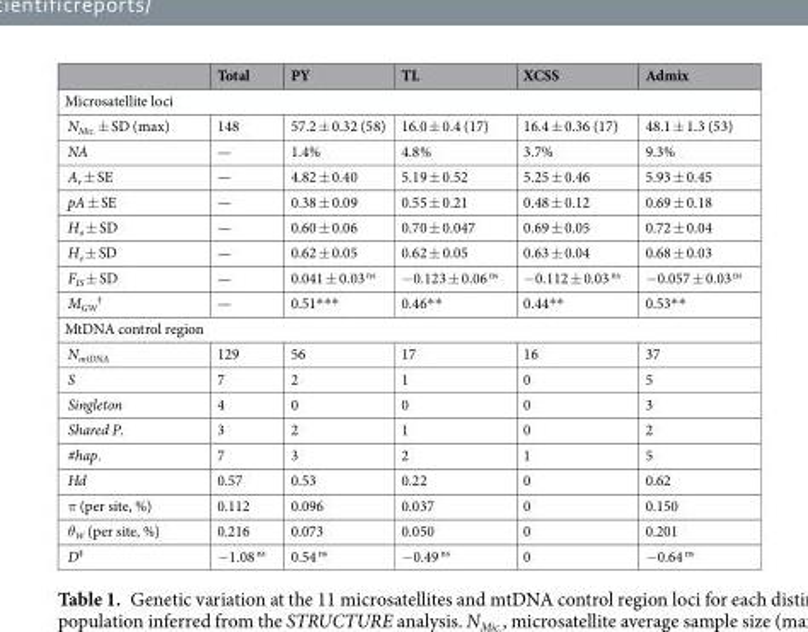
<table><thead><tr><td></td><td>Total</td><td>PY</td><td>TL</td><td>XCSS</td><td>Admix</td></tr></thead><tbody><tr><td colspan="6">Microsatellite loci</td></tr><tr><td>N<sub>Mic.</sub> ± SD (max)</td><td>148</td><td>57.2 ± 0.32 (58)</td><td>16.0 ± 0.4 (17)</td><td>16.4 ± 0.36 (17)</td><td>48.1 ± 1.3 (53)</td></tr><tr><td>NA</td><td>—</td><td>1.4%</td><td>4.8%</td><td>3.7%</td><td>9.3%</td></tr><tr><td>A<sub>r</sub> ± SE</td><td>—</td><td>4.82 ± 0.40</td><td>5.19 ± 0.52</td><td>5.25 ± 0.46</td><td>5.93 ± 0.45</td></tr><tr><td>pA ± SE</td><td>—</td><td>0.38 ± 0.09</td><td>0.55 ± 0.21</td><td>0.48 ± 0.12</td><td>0.69 ± 0.18</td></tr><tr><td>H<sub>o</sub> ± SD</td><td>—</td><td>0.60 ± 0.06</td><td>0.70 ± 0.047</td><td>0.69 ± 0.05</td><td>0.72 ± 0.04</td></tr><tr><td>H<sub>e</sub> ± SD</td><td>—</td><td>0.62 ± 0.05</td><td>0.62 ± 0.05</td><td>0.63 ± 0.04</td><td>0.68 ± 0.03</td></tr><tr><td>F<sub>IS</sub> ± SD</td><td>—</td><td>0.041 ± 0.03 <sup>ns</sup></td><td>−0.123 ± 0.06 <sup>ns</sup></td><td>−0.112 ± 0.03 <sup>ns</sup></td><td>−0.057 ± 0.03 <sup>ns</sup></td></tr><tr><td>M<sub>GW</sub> <sup>†</sup></td><td>—</td><td>0.51***</td><td>0.46**</td><td>0.44**</td><td>0.53**</td></tr><tr><td colspan="6">MtDNA control region</td></tr><tr><td>N<sub>mtDNA</sub></td><td>129</td><td>56</td><td>17</td><td>16</td><td>37</td></tr><tr><td>S</td><td>7</td><td>2</td><td>1</td><td>0</td><td>5</td></tr><tr><td>Singleton</td><td>4</td><td>0</td><td>0</td><td>0</td><td>3</td></tr><tr><td>Shared P.</td><td>3</td><td>2</td><td>1</td><td>0</td><td>2</td></tr><tr><td>#hap.</td><td>7</td><td>3</td><td>2</td><td>1</td><td>5</td></tr><tr><td>Hd</td><td>0.57</td><td>0.53</td><td>0.22</td><td>0</td><td>0.62</td></tr><tr><td>π (per site, %)</td><td>0.112</td><td>0.096</td><td>0.037</td><td>0</td><td>0.150</td></tr><tr><td>θ<sub>W</sub> (per site, %)</td><td>0.216</td><td>0.073</td><td>0.050</td><td>0</td><td>0.201</td></tr><tr><td>D<sup>‡</sup></td><td>−1.08 <sup>ns</sup></td><td>0.54 <sup>ns</sup></td><td>−0.49 <sup>ns</sup></td><td>0</td><td>−0.64 <sup>ns</sup></td></tr></tbody></table>